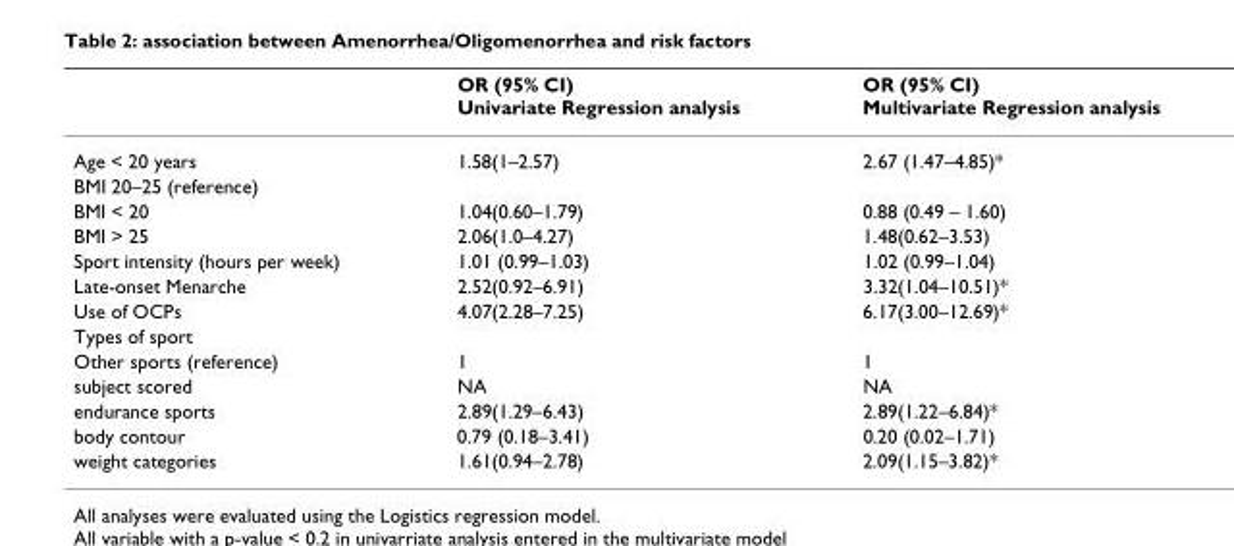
<table><thead><tr><td></td><td>OR (95% CI) Univariate Regression analysis</td><td>OR (95% CI) Multivariate Regression analysis</td></tr></thead><tbody><tr><td>Age &lt; 20 years</td><td>1.58(1–2.57)</td><td>2.67 (1.47–4.85)*</td></tr><tr><td colspan="3">BMI 20–25 (reference)</td></tr><tr><td>BMI &lt; 20</td><td>1.04(0.60–1.79)</td><td>0.88 (0.49 – 1.60)</td></tr><tr><td>BMI &gt; 25</td><td>2.06(1.0–4.27)</td><td>1.48(0.62–3.53)</td></tr><tr><td>Sport intensity (hours per week)</td><td>1.01 (0.99–1.03)</td><td>1.02 (0.99–1.04)</td></tr><tr><td>Late-onset Menarche</td><td>2.52(0.92–6.91)</td><td>3.32(1.04–10.51)*</td></tr><tr><td>Use of OCPs</td><td>4.07(2.28–7.25)</td><td>6.17(3.00–12.69)*</td></tr><tr><td colspan="3">Types of sport</td></tr><tr><td>Other sports (reference)</td><td>1</td><td>1</td></tr><tr><td>subject scored</td><td>NA</td><td>NA</td></tr><tr><td>endurance sports</td><td>2.89(1.29–6.43)</td><td>2.89(1.22–6.84)*</td></tr><tr><td>body contour</td><td>0.79 (0.18–3.41)</td><td>0.20 (0.02–1.71)</td></tr><tr><td>weight categories</td><td>1.61(0.94–2.78)</td><td>2.09(1.15–3.82)*</td></tr></tbody></table>